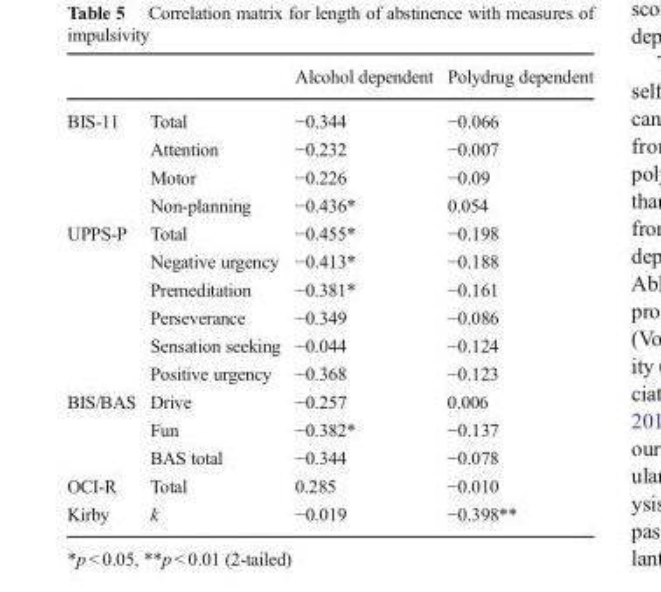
<table><thead><tr><td></td><td></td><td>Alcohol dependent</td><td>Polydrug dependent</td></tr></thead><tbody><tr><td rowspan="4">BIS-11</td><td>Total</td><td>−0.344</td><td>−0.066</td></tr><tr><td>Attention</td><td>−0.232</td><td>−0.007</td></tr><tr><td>Motor</td><td>−0.226</td><td>−0.09</td></tr><tr><td>Non-planning</td><td>−0.436*</td><td>0.054</td></tr><tr><td rowspan="6">UPPS-P</td><td>Total</td><td>−0.455*</td><td>−0.198</td></tr><tr><td>Negative urgency</td><td>−0.413*</td><td>−0.188</td></tr><tr><td>Premeditation</td><td>−0.381*</td><td>−0.161</td></tr><tr><td>Perseverance</td><td>−0.349</td><td>−0.086</td></tr><tr><td>Sensation seeking</td><td>−0.044</td><td>−0.124</td></tr><tr><td>Positive urgency</td><td>−0.368</td><td>−0.123</td></tr><tr><td rowspan="3">BIS/BAS</td><td>Drive</td><td>−0.257</td><td>0.006</td></tr><tr><td>Fun</td><td>−0.382*</td><td>−0.137</td></tr><tr><td>BAS total</td><td>−0.344</td><td>−0.078</td></tr><tr><td>OCI-R</td><td>Total</td><td>0.285</td><td>−0.010</td></tr><tr><td>Kirby</td><td>k</td><td>−0.019</td><td>−0.398**</td></tr></tbody></table>